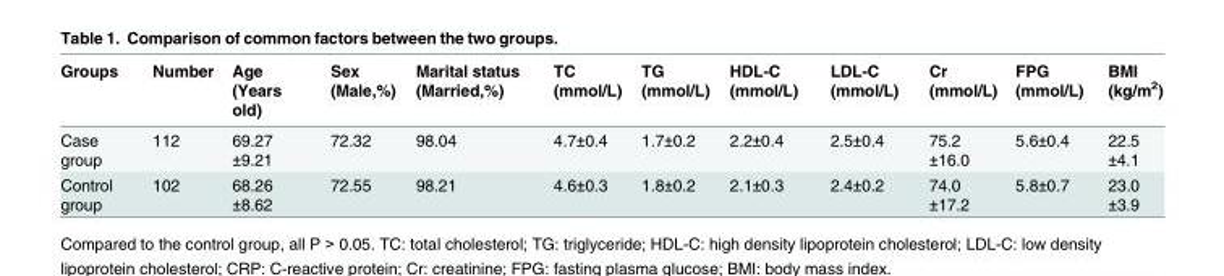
<table><thead><tr><td>Groups</td><td>Number</td><td>Age (Years old)</td><td>Sex (Male,%)</td><td>Marital status (Married,%)</td><td>TC (mmol/L)</td><td>TG (mmol/L)</td><td>HDL-C (mmol/L)</td><td>LDL-C (mmol/L)</td><td>Cr (mmol/L)</td><td>FPG (mmol/L)</td><td>BMI (kg/m<sup>2</sup>)</td></tr></thead><tbody><tr><td>Case group</td><td>112</td><td>69.27 ±9.21</td><td>72.32</td><td>98.04</td><td>4.7±0.4</td><td>1.7±0.2</td><td>2.2±0.4</td><td>2.5±0.4</td><td>75.2 ±16.0</td><td>5.6±0.4</td><td>22.5 ±4.1</td></tr><tr><td>Control group</td><td>102</td><td>68.26 ±8.62</td><td>72.55</td><td>98.21</td><td>4.6±0.3</td><td>1.8±0.2</td><td>2.1±0.3</td><td>2.4±0.2</td><td>74.0 ±17.2</td><td>5.8±0.7</td><td>23.0 ±3.9</td></tr></tbody></table>